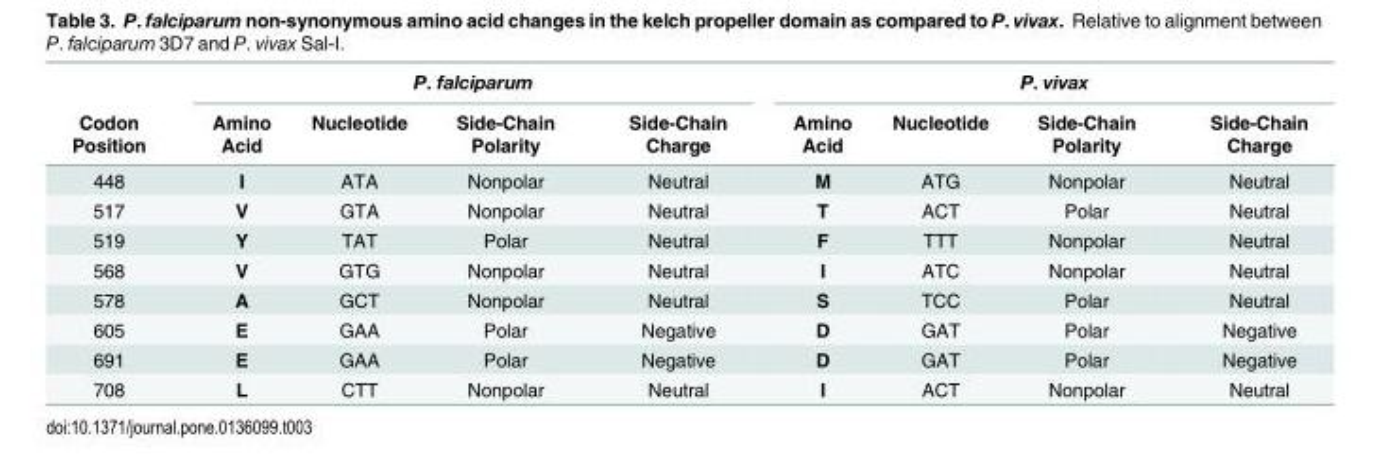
<table><thead><tr><td rowspan="2">Codon Position</td><td colspan="4">P. falciparum</td><td colspan="4">P. vivax</td></tr><tr><td>Amino Acid</td><td>Nucleotide</td><td>Side-Chain Polarity</td><td>Side-Chain Charge</td><td>Amino Acid</td><td>Nucleotide</td><td>Side-Chain Polarity</td><td>Side-Chain Charge</td></tr></thead><tbody><tr><td>448</td><td>I</td><td>ATA</td><td>Nonpolar</td><td>Neutral</td><td>M</td><td>ATG</td><td>Nonpolar</td><td>Neutral</td></tr><tr><td>517</td><td>V</td><td>GTA</td><td>Nonpolar</td><td>Neutral</td><td>T</td><td>ACT</td><td>Polar</td><td>Neutral</td></tr><tr><td>519</td><td>Y</td><td>TAT</td><td>Polar</td><td>Neutral</td><td>F</td><td>TTT</td><td>Nonpolar</td><td>Neutral</td></tr><tr><td>568</td><td>V</td><td>GTG</td><td>Nonpolar</td><td>Neutral</td><td>I</td><td>ATC</td><td>Nonpolar</td><td>Neutral</td></tr><tr><td>578</td><td>A</td><td>GCT</td><td>Nonpolar</td><td>Neutral</td><td>S</td><td>TCC</td><td>Polar</td><td>Neutral</td></tr><tr><td>605</td><td>E</td><td>GAA</td><td>Polar</td><td>Negative</td><td>D</td><td>GAT</td><td>Polar</td><td>Negative</td></tr><tr><td>691</td><td>E</td><td>GAA</td><td>Polar</td><td>Negative</td><td>D</td><td>GAT</td><td>Polar</td><td>Negative</td></tr><tr><td>708</td><td>L</td><td>CTT</td><td>Nonpolar</td><td>Neutral</td><td>I</td><td>ACT</td><td>Nonpolar</td><td>Neutral</td></tr></tbody></table>